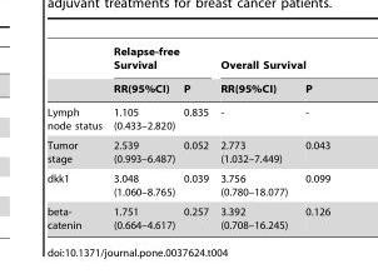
<table><thead><tr><td rowspan="2"></td><td colspan="2">Relapse-free Survival</td><td colspan="2">Overall Survival</td></tr><tr><td>RR(95%CI)</td><td>P</td><td>RR(95%CI)</td><td>P</td></tr></thead><tbody><tr><td>Lymph node status</td><td>1.105 (0.433–2.820)</td><td>0.835</td><td>-</td><td>-</td></tr><tr><td>Tumor stage</td><td>2.539 (0.993–6.487)</td><td>0.052</td><td>2.773 (1.032–7.449)</td><td>0.043</td></tr><tr><td>dkk1</td><td>3.048 (1.060–8.765)</td><td>0.039</td><td>3.756 (0.780–18.077)</td><td>0.099</td></tr><tr><td>beta- catenin</td><td>1.751 (0.664–4.617)</td><td>0.257</td><td>3.392 (0.708–16.245)</td><td>0.126</td></tr></tbody></table>